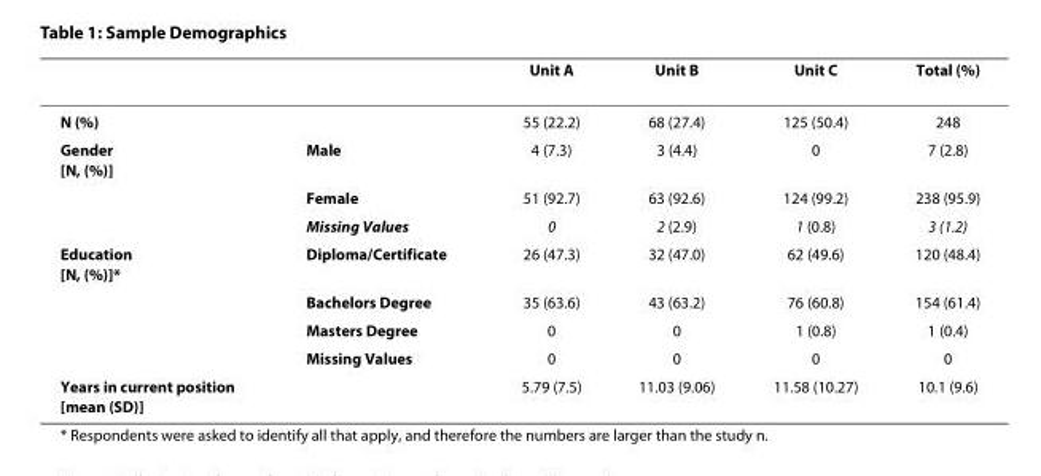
<table><thead><tr><td></td><td></td><td>Unit A</td><td>Unit B</td><td>Unit C</td><td>Total (%)</td></tr></thead><tbody><tr><td>N (%)</td><td></td><td>55 (22.2)</td><td>68 (27.4)</td><td>125 (50.4)</td><td>248</td></tr><tr><td rowspan="3">Gender [N, (%)]</td><td>Male</td><td>4 (7.3)</td><td>3 (4.4)</td><td>0</td><td>7 (2.8)</td></tr><tr><td>Female</td><td>51 (92.7)</td><td>63 (92.6)</td><td>124 (99.2)</td><td>238 (95.9)</td></tr><tr><td>Missing Values</td><td>0</td><td>2 (2.9)</td><td>1 (0.8)</td><td>3 (1.2)</td></tr><tr><td rowspan="4">Education [N, (%)]*</td><td>Diploma/Certificate</td><td>26 (47.3)</td><td>32 (47.0)</td><td>62 (49.6)</td><td>120 (48.4)</td></tr><tr><td>Bachelors Degree</td><td>35 (63.6)</td><td>43 (63.2)</td><td>76 (60.8)</td><td>154 (61.4)</td></tr><tr><td>Masters Degree</td><td>0</td><td>0</td><td>1 (0.8)</td><td>1 (0.4)</td></tr><tr><td>Missing Values</td><td>0</td><td>0</td><td>0</td><td>0</td></tr><tr><td>Years in current position [mean (SD)]</td><td></td><td>5.79 (7.5)</td><td>11.03 (9.06)</td><td>11.58 (10.27)</td><td>10.1 (9.6)</td></tr></tbody></table>